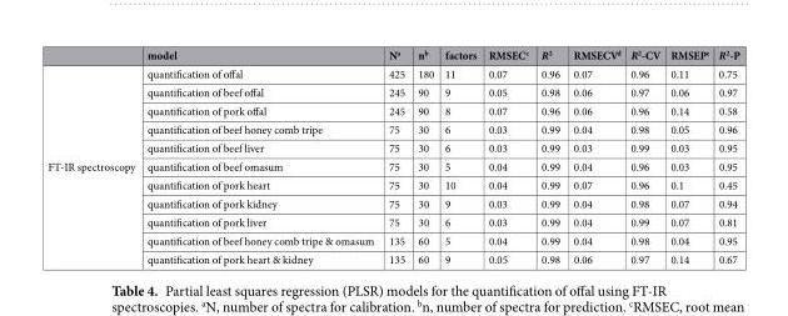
<table><thead><tr><td></td><td>model</td><td>N<sup>a</sup></td><td>n<sup>b</sup></td><td>factors</td><td>RMSEC<sup>c</sup></td><td>R<sup>2</sup></td><td>RMSECV<sup>d</sup></td><td>R<sup>2</sup>-CV</td><td>RMSEP<sup>e</sup></td><td>R<sup>2</sup>-P</td></tr></thead><tbody><tr><td rowspan="11">FT-IR spectroscopy</td><td>quantification of offal</td><td>425</td><td>180</td><td>11</td><td>0.07</td><td>0.96</td><td>0.07</td><td>0.96</td><td>0.11</td><td>0.75</td></tr><tr><td>quantification of beef offal</td><td>245</td><td>90</td><td>9</td><td>0.05</td><td>0.98</td><td>0.06</td><td>0.97</td><td>0.06</td><td>0.97</td></tr><tr><td>quantification of pork offal</td><td>245</td><td>90</td><td>8</td><td>0.07</td><td>0.96</td><td>0.06</td><td>0.96</td><td>0.14</td><td>0.58</td></tr><tr><td>quantification of beef honey comb tripe</td><td>75</td><td>30</td><td>6</td><td>0.03</td><td>0.99</td><td>0.04</td><td>0.98</td><td>0.05</td><td>0.96</td></tr><tr><td>quantification of beef liver</td><td>75</td><td>30</td><td>6</td><td>0.03</td><td>0.99</td><td>0.03</td><td>0.99</td><td>0.03</td><td>0.95</td></tr><tr><td>quantification of beef omasum</td><td>75</td><td>30</td><td>5</td><td>0.04</td><td>0.99</td><td>0.04</td><td>0.96</td><td>0.03</td><td>0.95</td></tr><tr><td>quantification of pork heart</td><td>75</td><td>30</td><td>10</td><td>0.04</td><td>0.99</td><td>0.07</td><td>0.96</td><td>0.1</td><td>0.45</td></tr><tr><td>quantification of pork kidney</td><td>75</td><td>30</td><td>9</td><td>0.03</td><td>0.99</td><td>0.04</td><td>0.98</td><td>0.07</td><td>0.94</td></tr><tr><td>quantification of pork liver</td><td>75</td><td>30</td><td>6</td><td>0.03</td><td>0.99</td><td>0.04</td><td>0.99</td><td>0.07</td><td>0.81</td></tr><tr><td>quantification of beef honey comb tripe &amp; omasum</td><td>135</td><td>60</td><td>5</td><td>0.04</td><td>0.99</td><td>0.04</td><td>0.98</td><td>0.04</td><td>0.95</td></tr><tr><td>quantification of pork heart &amp; kidney</td><td>135</td><td>60</td><td>9</td><td>0.05</td><td>0.98</td><td>0.06</td><td>0.97</td><td>0.14</td><td>0.67</td></tr></tbody></table>